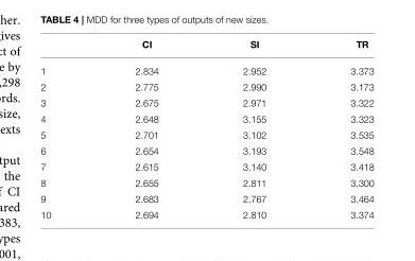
<table><thead><tr><td></td><td>CI</td><td>SI</td><td>TR</td></tr></thead><tbody><tr><td>1</td><td>2.834</td><td>2.952</td><td>3.373</td></tr><tr><td>2</td><td>2.775</td><td>2.990</td><td>3.173</td></tr><tr><td>3</td><td>2.675</td><td>2.971</td><td>3.322</td></tr><tr><td>4</td><td>2.648</td><td>3.155</td><td>3.323</td></tr><tr><td>5</td><td>2.701</td><td>3.102</td><td>3.535</td></tr><tr><td>6</td><td>2.654</td><td>3.193</td><td>3.548</td></tr><tr><td>7</td><td>2.615</td><td>3.140</td><td>3.418</td></tr><tr><td>8</td><td>2.655</td><td>2.811</td><td>3.300</td></tr><tr><td>9</td><td>2.683</td><td>2.767</td><td>3.464</td></tr><tr><td>10</td><td>2.694</td><td>2.810</td><td>3.374</td></tr></tbody></table>